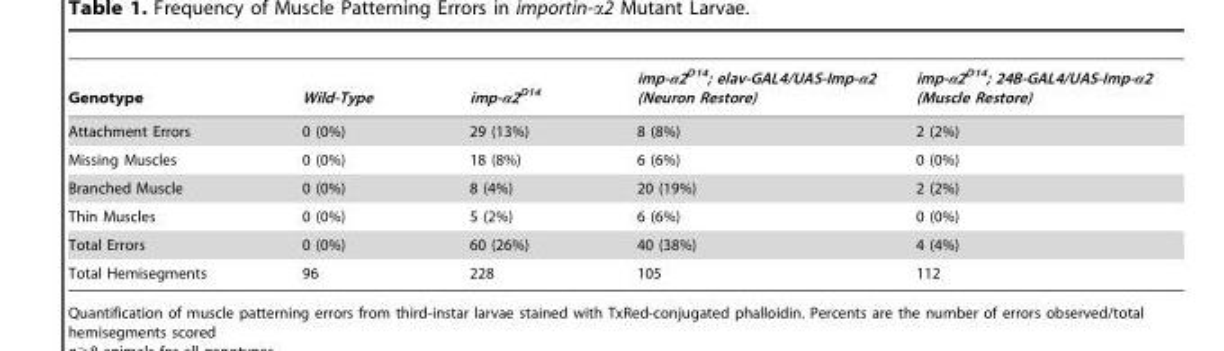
<table><thead><tr><td>Genotype</td><td>Wild-Type</td><td>imp-α2<sup>D14</sup></td><td>imp-α2<sup>D14</sup>; elav-GAL4/UAS-Imp-α2 (Neuron Restore)</td><td>imp-α2<sup>D14</sup>; 24B-GAL4/UAS-Imp-α2 (Muscle Restore)</td></tr></thead><tbody><tr><td>Attachment Errors</td><td>0 (0%)</td><td>29 (13%)</td><td>8 (8%)</td><td>2 (2%)</td></tr><tr><td>Missing Muscles</td><td>0 (0%)</td><td>18 (8%)</td><td>6 (6%)</td><td>0 (0%)</td></tr><tr><td>Branched Muscle</td><td>0 (0%)</td><td>8 (4%)</td><td>20 (19%)</td><td>2 (2%)</td></tr><tr><td>Thin Muscles</td><td>0 (0%)</td><td>5 (2%)</td><td>6 (6%)</td><td>0 (0%)</td></tr><tr><td>Total Errors</td><td>0 (0%)</td><td>60 (26%)</td><td>40 (38%)</td><td>4 (4%)</td></tr><tr><td>Total Hemisegments</td><td>96</td><td>228</td><td>105</td><td>112</td></tr></tbody></table>